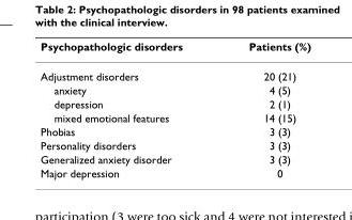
<table><thead><tr><td>Psychopathologic disorders</td><td>Patients (%)</td></tr></thead><tbody><tr><td>Adjustment disorders</td><td>20 (21)</td></tr><tr><td>anxiety</td><td>4 (5)</td></tr><tr><td>depression</td><td>2 (1)</td></tr><tr><td>mixed emotional features</td><td>14 (15)</td></tr><tr><td>Phobias</td><td>3 (3)</td></tr><tr><td>Personality disorders</td><td>3 (3)</td></tr><tr><td>Generalized anxiety disorder</td><td>3 (3)</td></tr><tr><td>Major depression</td><td>0</td></tr></tbody></table>